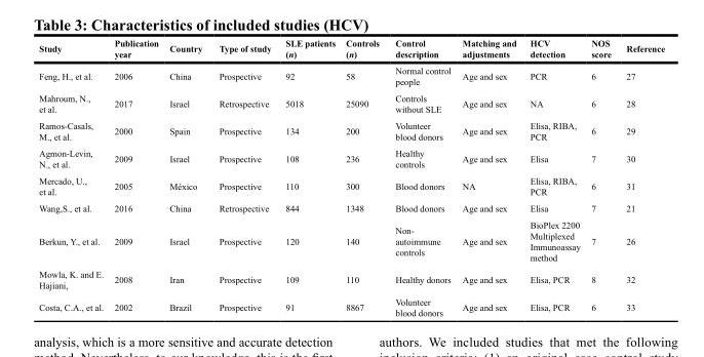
<table><thead><tr><td>Study</td><td>Publication year</td><td>Country</td><td>Type of study</td><td>SLE patients (n)</td><td>Controls (n)</td><td>Control description</td><td>Matching and adjustments</td><td>HCV detection</td><td>NOS score</td><td>Reference</td></tr></thead><tbody><tr><td>Feng, H., et al.</td><td>2006</td><td>China</td><td>Prospective</td><td>92</td><td>58</td><td>Normal control people</td><td>Age and sex</td><td>PCR</td><td>6</td><td>27</td></tr><tr><td>Mahroum, N., et al.</td><td>2017</td><td>Israel</td><td>Retrospective</td><td>5018</td><td>25090</td><td>Controls without SLE</td><td>Age and sex</td><td>NA</td><td>6</td><td>28</td></tr><tr><td>Ramos-Casals, M., et al.</td><td>2000</td><td>Spain</td><td>Prospective</td><td>134</td><td>200</td><td>Volunteer blood donors</td><td>Age and sex</td><td>Elisa, RIBA, PCR</td><td>6</td><td>29</td></tr><tr><td>Agmon-Levin, N., et al.</td><td>2009</td><td>Israel</td><td>Prospective</td><td>108</td><td>236</td><td>Healthy controls</td><td>Age and sex</td><td>Elisa</td><td>7</td><td>30</td></tr><tr><td>Mercado, U., et al.</td><td>2005</td><td>México</td><td>Prospective</td><td>110</td><td>300</td><td>Blood donors</td><td>NA</td><td>Elisa, RIBA, PCR</td><td>6</td><td>31</td></tr><tr><td>Wang,S., et al.</td><td>2016</td><td>China</td><td>Retrospective</td><td>844</td><td>1348</td><td>Blood donors</td><td>Age and sex</td><td>Elisa</td><td>7</td><td>21</td></tr><tr><td>Berkun, Y., et al.</td><td>2009</td><td>Israel</td><td>Prospective</td><td>120</td><td>140</td><td>Non- autoimmune controls</td><td>Age and sex</td><td>BioPlex 2200 Multiplexed Immunoassay method</td><td>7</td><td>26</td></tr><tr><td>Mowla, K. and E. Hajiani,</td><td>2008</td><td>Iran</td><td>Prospective</td><td>109</td><td>110</td><td>Healthy donors</td><td>Age and sex</td><td>Elisa, PCR</td><td>8</td><td>32</td></tr><tr><td>Costa, C.A., et al.</td><td>2002</td><td>Brazil</td><td>Prospective</td><td>91</td><td>8867</td><td>Volunteer blood donors</td><td>Age and sex</td><td>Elisa, PCR</td><td>6</td><td>33</td></tr></tbody></table>